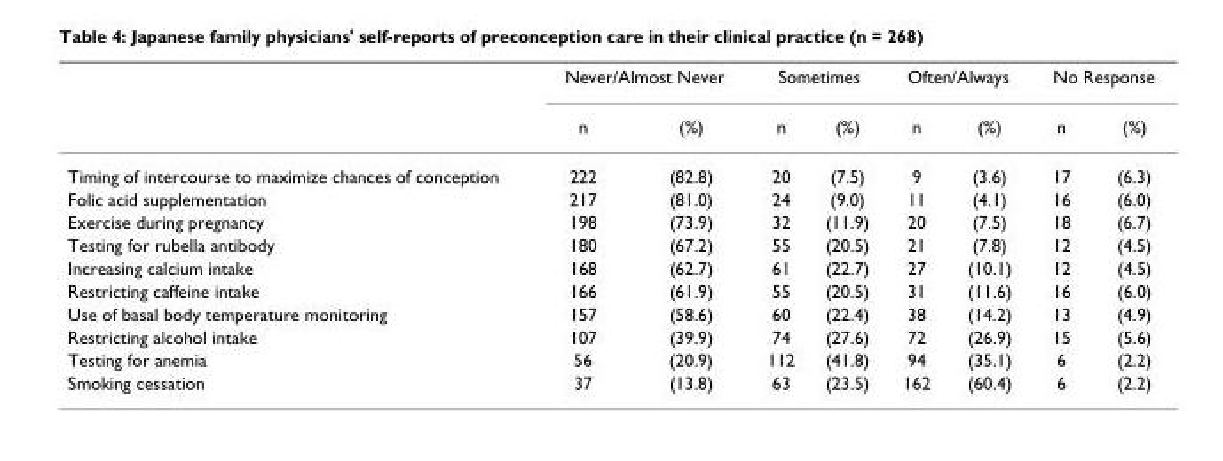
<table><thead><tr><td rowspan="2"></td><td colspan="2">Never/Almost Never</td><td colspan="2">Sometimes</td><td colspan="2">Often/Always</td><td colspan="2">No Response</td></tr><tr><td>n</td><td>(%)</td><td>n</td><td>(%)</td><td>n</td><td>(%)</td><td>n</td><td>(%)</td></tr></thead><tbody><tr><td>Timing of intercourse to maximize chances of conception</td><td>222</td><td>(82.8)</td><td>20</td><td>(7.5)</td><td>9</td><td>(3.6)</td><td>17</td><td>(6.3)</td></tr><tr><td>Folic acid supplementation</td><td>217</td><td>(81.0)</td><td>24</td><td>(9.0)</td><td>11</td><td>(4.1)</td><td>16</td><td>(6.0)</td></tr><tr><td>Exercise during pregnancy</td><td>198</td><td>(73.9)</td><td>32</td><td>(11.9)</td><td>20</td><td>(7.5)</td><td>18</td><td>(6.7)</td></tr><tr><td>Testing for rubella antibody</td><td>180</td><td>(67.2)</td><td>55</td><td>(20.5)</td><td>21</td><td>(7.8)</td><td>12</td><td>(4.5)</td></tr><tr><td>Increasing calcium intake</td><td>168</td><td>(62.7)</td><td>61</td><td>(22.7)</td><td>27</td><td>(10.1)</td><td>12</td><td>(4.5)</td></tr><tr><td>Restricting caffeine intake</td><td>166</td><td>(61.9)</td><td>55</td><td>(20.5)</td><td>31</td><td>(11.6)</td><td>16</td><td>(6.0)</td></tr><tr><td>Use of basal body temperature monitoring</td><td>157</td><td>(58.6)</td><td>60</td><td>(22.4)</td><td>38</td><td>(14.2)</td><td>13</td><td>(4.9)</td></tr><tr><td>Restricting alcohol intake</td><td>107</td><td>(39.9)</td><td>74</td><td>(27.6)</td><td>72</td><td>(26.9)</td><td>15</td><td>(5.6)</td></tr><tr><td>Testing for anemia</td><td>56</td><td>(20.9)</td><td>112</td><td>(41.8)</td><td>94</td><td>(35.1)</td><td>6</td><td>(2.2)</td></tr><tr><td>Smoking cessation</td><td>37</td><td>(13.8)</td><td>63</td><td>(23.5)</td><td>162</td><td>(60.4)</td><td>6</td><td>(2.2)</td></tr></tbody></table>